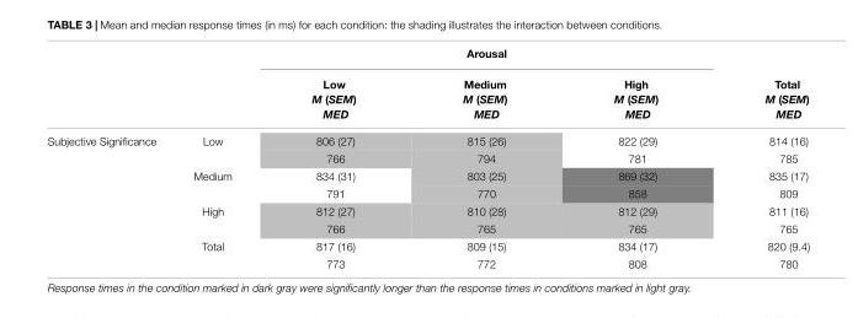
<table><thead><tr><td rowspan="2"></td><td rowspan="2"></td><td colspan="3">Arousal</td><td rowspan="2">Total M (SEM) MED</td></tr><tr><td>Low M (SEM) MED</td><td>Medium M (SEM) MED</td><td>High M (SEM) MED</td></tr></thead><tbody><tr><td rowspan="8">Subjective Significance</td><td>Low</td><td>806 (27)</td><td>815 (26)</td><td>822 (29)</td><td>814 (16)</td></tr><tr><td></td><td>766</td><td>794</td><td>781</td><td>785</td></tr><tr><td>Medium</td><td>834 (31)</td><td>803 (25)</td><td>869 (32)</td><td>835 (17)</td></tr><tr><td></td><td>791</td><td>770</td><td>858</td><td>809</td></tr><tr><td>High</td><td>812 (27)</td><td>810 (28)</td><td>812 (29)</td><td>811 (16)</td></tr><tr><td></td><td>766</td><td>765</td><td>765</td><td>765</td></tr><tr><td>Total</td><td>817 (16)</td><td>809 (15)</td><td>834 (17)</td><td>820 (9.4)</td></tr><tr><td></td><td>773</td><td>772</td><td>808</td><td>780</td></tr></tbody></table>